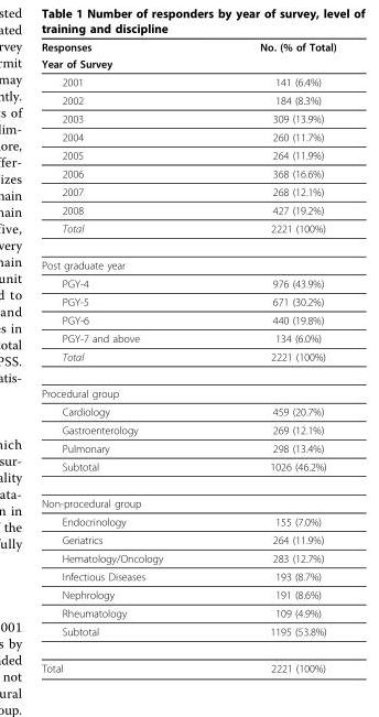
<table><thead><tr><td rowspan="2">Responses Year of Survey</td><td rowspan="2">No. (% of Total)</td></tr><tr></tr></thead><tbody><tr><td>2001</td><td>141 (6.4%)</td></tr><tr><td>2002</td><td>184 (8.3%)</td></tr><tr><td>2003</td><td>309 (13.9%)</td></tr><tr><td>2004</td><td>260 (11.7%)</td></tr><tr><td>2005</td><td>264 (11.9%)</td></tr><tr><td>2006</td><td>368 (16.6%)</td></tr><tr><td>2007</td><td>268 (12.1%)</td></tr><tr><td>2008</td><td>427 (19.2%)</td></tr><tr><td>Total</td><td>2221 (100%)</td></tr><tr><td colspan="2">Post graduate year</td></tr><tr><td>PGY-4</td><td>976 (43.9%)</td></tr><tr><td>PGY-5</td><td>671 (30.2%)</td></tr><tr><td>PGY-6</td><td>440 (19.8%)</td></tr><tr><td>PGY-7 and above</td><td>134 (6.0%)</td></tr><tr><td>Total</td><td>2221 (100%)</td></tr><tr><td colspan="2">Procedural group</td></tr><tr><td>Cardiology</td><td>459 (20.7%)</td></tr><tr><td>Gastroenterology</td><td>269 (12.1%)</td></tr><tr><td>Pulmonary</td><td>298 (13.4%)</td></tr><tr><td>Subtotal</td><td>1026 (46.2%)</td></tr><tr><td colspan="2">Non-procedural group</td></tr><tr><td>Endocrinology</td><td>155 (7.0%)</td></tr><tr><td>Geriatrics</td><td>264 (11.9%)</td></tr><tr><td>Hematology/Oncology</td><td>283 (12.7%)</td></tr><tr><td>Infectious Diseases</td><td>193 (8.7%)</td></tr><tr><td>Nephrology</td><td>191 (8.6%)</td></tr><tr><td>Rheumatology</td><td>109 (4.9%)</td></tr><tr><td>Subtotal</td><td>1195 (53.8%)</td></tr><tr><td>Total</td><td>2221 (100%)</td></tr></tbody></table>